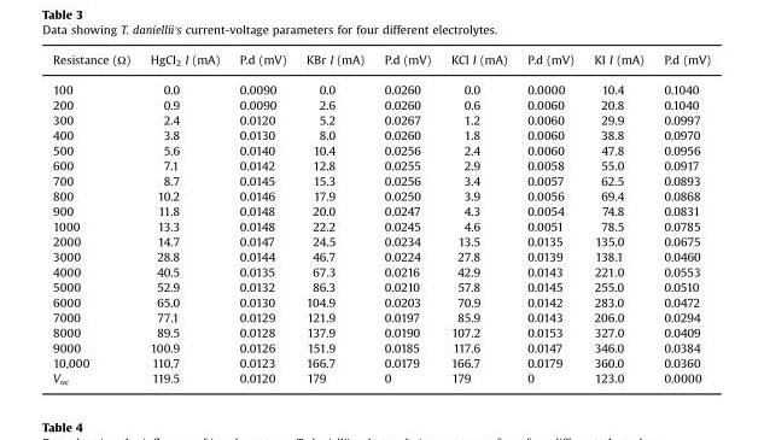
<table><thead><tr><td>Resistance (Ω)</td><td>HgCl<sub>2</sub> I (mA)</td><td>P.d (mV)</td><td>KBr I (mA)</td><td>P.d (mV)</td><td>KCl I (mA)</td><td>P.d (mV)</td><td>KI I (mA)</td><td>P.d (mV)</td></tr></thead><tbody><tr><td>100</td><td>0.0</td><td>0.0090</td><td>0.0</td><td>0.0260</td><td>0.0</td><td>0.0000</td><td>10.4</td><td>0.1040</td></tr><tr><td>200</td><td>0.9</td><td>0.0090</td><td>2.6</td><td>0.0260</td><td>0.6</td><td>0.0060</td><td>20.8</td><td>0.1040</td></tr><tr><td>300</td><td>2.4</td><td>0.0120</td><td>5.2</td><td>0.0267</td><td>1.2</td><td>0.0060</td><td>29.9</td><td>0.0997</td></tr><tr><td>400</td><td>3.8</td><td>0.0130</td><td>8.0</td><td>0.0260</td><td>1.8</td><td>0.0060</td><td>38.8</td><td>0.0970</td></tr><tr><td>500</td><td>5.6</td><td>0.0140</td><td>10.4</td><td>0.0256</td><td>2.4</td><td>0.0060</td><td>47.8</td><td>0.0956</td></tr><tr><td>600</td><td>7.1</td><td>0.0142</td><td>12.8</td><td>0.0255</td><td>2.9</td><td>0.0058</td><td>55.0</td><td>0.0917</td></tr><tr><td>700</td><td>8.7</td><td>0.0145</td><td>15.3</td><td>0.0256</td><td>3.4</td><td>0.0057</td><td>62.5</td><td>0.0893</td></tr><tr><td>800</td><td>10.2</td><td>0.0146</td><td>17.9</td><td>0.0250</td><td>3.9</td><td>0.0056</td><td>69.4</td><td>0.0868</td></tr><tr><td>900</td><td>11.8</td><td>0.0148</td><td>20.0</td><td>0.0247</td><td>4.3</td><td>0.0054</td><td>74.8</td><td>0.0831</td></tr><tr><td>1000</td><td>13.3</td><td>0.0148</td><td>22.2</td><td>0.0245</td><td>4.6</td><td>0.0051</td><td>78.5</td><td>0.0785</td></tr><tr><td>2000</td><td>14.7</td><td>0.0147</td><td>24.5</td><td>0.0234</td><td>13.5</td><td>0.0135</td><td>135.0</td><td>0.0675</td></tr><tr><td>3000</td><td>28.8</td><td>0.0144</td><td>46.7</td><td>0.0224</td><td>27.8</td><td>0.0139</td><td>138.1</td><td>0.0460</td></tr><tr><td>4000</td><td>40.5</td><td>0.0135</td><td>67.3</td><td>0.0216</td><td>42.9</td><td>0.0143</td><td>221.0</td><td>0.0553</td></tr><tr><td>5000</td><td>52.9</td><td>0.0132</td><td>86.3</td><td>0.0210</td><td>57.8</td><td>0.0145</td><td>255.0</td><td>0.0510</td></tr><tr><td>6000</td><td>65.0</td><td>0.0130</td><td>104.9</td><td>0.0203</td><td>70.9</td><td>0.0142</td><td>283.0</td><td>0.0472</td></tr><tr><td>7000</td><td>77.1</td><td>0.0129</td><td>121.9</td><td>0.0197</td><td>85.9</td><td>0.0143</td><td>206.0</td><td>0.0294</td></tr><tr><td>8000</td><td>89.5</td><td>0.0128</td><td>137.9</td><td>0.0190</td><td>107.2</td><td>0.0153</td><td>327.0</td><td>0.0409</td></tr><tr><td>9000</td><td>100.9</td><td>0.0126</td><td>151.9</td><td>0.0185</td><td>117.6</td><td>0.0147</td><td>346.0</td><td>0.0384</td></tr><tr><td>10,000</td><td>110.7</td><td>0.0123</td><td>166.7</td><td>0.0179</td><td>166.7</td><td>0.0179</td><td>360.0</td><td>0.0360</td></tr><tr><td>V<sub>oc</sub></td><td>119.5</td><td>0.0120</td><td>179</td><td>0</td><td>179</td><td>0</td><td>123.0</td><td>0.0000</td></tr></tbody></table>